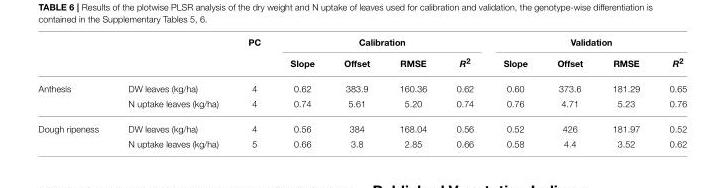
<table><thead><tr><td rowspan="2"></td><td rowspan="2"></td><td rowspan="2">PC</td><td colspan="4">Calibration</td><td colspan="4">Validation</td></tr><tr><td>Slope</td><td>Offset</td><td>RMSE</td><td>R<sup>2</sup></td><td>Slope</td><td>Offset</td><td>RMSE</td><td>R<sup>2</sup></td></tr></thead><tbody><tr><td rowspan="2">Anthesis</td><td>DW leaves (kg/ha)</td><td>4</td><td>0.62</td><td>383.9</td><td>160.36</td><td>0.62</td><td>0.60</td><td>373.6</td><td>181.29</td><td>0.65</td></tr><tr><td>N uptake leaves (kg/ha)</td><td>4</td><td>0.74</td><td>5.61</td><td>5.20</td><td>0.74</td><td>0.76</td><td>4.71</td><td>5.23</td><td>0.76</td></tr><tr><td rowspan="2">Dough ripeness</td><td>DW leaves (kg/ha)</td><td>4</td><td>0.56</td><td>384</td><td>168.04</td><td>0.56</td><td>0.52</td><td>426</td><td>181.97</td><td>0.52</td></tr><tr><td>N uptake leaves (kg/ha)</td><td>5</td><td>0.66</td><td>3.8</td><td>2.85</td><td>0.66</td><td>0.58</td><td>4.4</td><td>3.52</td><td>0.62</td></tr></tbody></table>